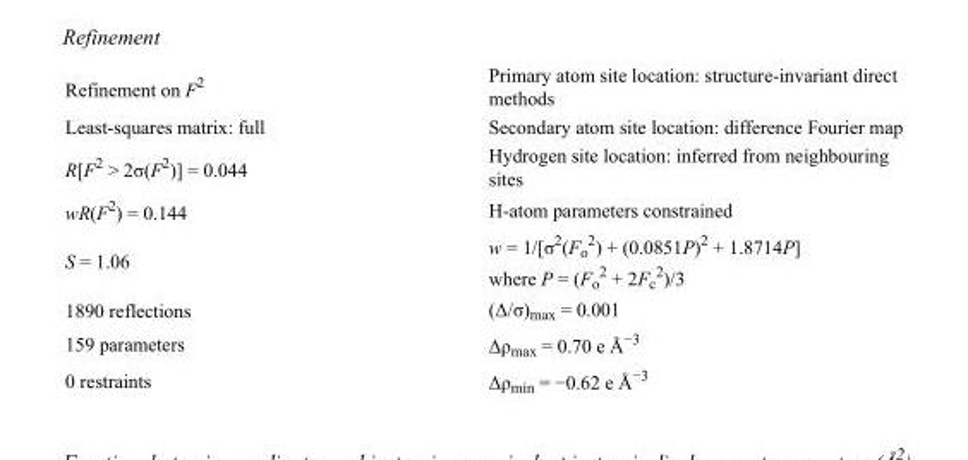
<table><tbody><tr><td>Refinement on F<sup>2</sup></td><td>Primary atom site location: structure-invariant direct methods</td></tr><tr><td>Least-squares matrix: full</td><td>Secondary atom site location: difference Fourier map</td></tr><tr><td>R[F<sup>2</sup> &gt; 2σ(F<sup>2</sup>)] = 0.044</td><td>Hydrogen site location: inferred from neighbouring sites</td></tr><tr><td>wR(F<sup>2</sup>) = 0.144</td><td>H-atom parameters constrained</td></tr><tr><td>S = 1.06</td><td>w = 1/[σ<sup>2</sup>(F<sub>o</sub> <sup>2</sup>) + (0.0851P)<sup>2</sup> + 1.8714P] where P = (F<sub>o</sub> <sup>2</sup> + 2F<sub>c</sub> <sup>2</sup>)/3</td></tr><tr><td>1890 reflections</td><td>(Δ/σ)<sub>max</sub> = 0.001</td></tr><tr><td>159 parameters</td><td>Δρ<sub>max</sub> = 0.70 e Å<sup>−3</sup></td></tr><tr><td>0 restraints</td><td>Δρ<sub>min</sub> = −0.62 e Å<sup>−3</sup></td></tr></tbody></table>